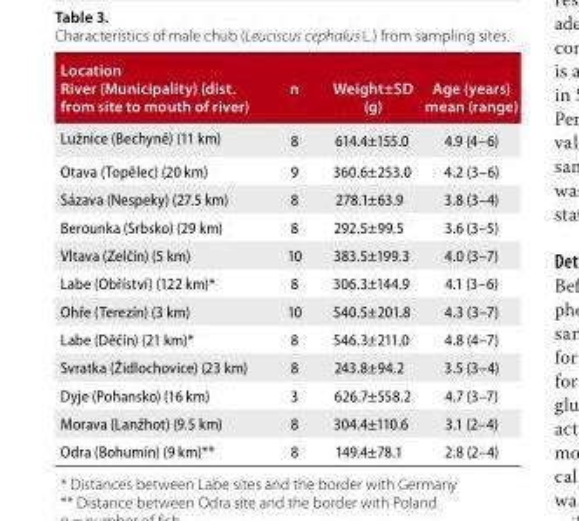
<table><thead><tr><td>location River (Municipality) (dist. from site to mouth of river)</td><td>n</td><td>Weight±Sd (g)</td><td>age (years) mean (range)</td></tr></thead><tbody><tr><td>Lužnice (Bechyně) (11 km)</td><td>8</td><td>614.4±155.0</td><td>4.9 (4–6)</td></tr><tr><td>Otava (Topělec) (20 km)</td><td>9</td><td>360.6±253.0</td><td>4.2 (3–6)</td></tr><tr><td>Sázava (Nespeky) (27.5 km)</td><td>8</td><td>278.1±63.9</td><td>3.8 (3–4)</td></tr><tr><td>Berounka (Srbsko) (29 km)</td><td>8</td><td>292.5±99.5</td><td>3.6 (3–5)</td></tr><tr><td>Vltava (Zelčín) (5 km)</td><td>10</td><td>383.5±199.3</td><td>4.0 (3–7)</td></tr><tr><td>Labe (Obříství) (122 km)*</td><td>8</td><td>306.3±144.9</td><td>4.1 (3–6)</td></tr><tr><td>Ohře (Terezín) (3 km)</td><td>10</td><td>540.5±201.8</td><td>4.3 (3–7)</td></tr><tr><td>Labe (Děčín) (21 km)*</td><td>8</td><td>546.3±211.0</td><td>4.8 (4–7)</td></tr><tr><td>Svratka (Židlochovice) (23 km)</td><td>8</td><td>243.8±94.2</td><td>3.5 (3–4)</td></tr><tr><td>Dyje (Pohansko) (16 km)</td><td>3</td><td>626.7±558.2</td><td>4.7 (3–7)</td></tr><tr><td>Morava (Lanžhot) (9.5 km)</td><td>8</td><td>304.4±110.6</td><td>3.1 (2–4)</td></tr><tr><td>Odra (Bohumín) (9 km)**</td><td>8</td><td>149.4±78.1</td><td>2.8 (2–4)</td></tr></tbody></table>